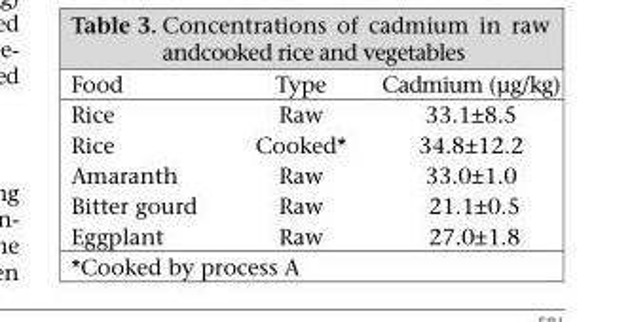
<table><thead><tr><td>Food</td><td>Type</td><td>Cadmium (µg/kg)</td></tr></thead><tbody><tr><td>Rice</td><td>Raw</td><td>33.1±8.5</td></tr><tr><td>Rice</td><td>Cooked*</td><td>34.8±12.2</td></tr><tr><td>Amaranth</td><td>Raw</td><td>33.0±1.0</td></tr><tr><td>Bitter gourd</td><td>Raw</td><td>21.1±0.5</td></tr><tr><td>Eggplant</td><td>Raw</td><td>27.0±1.8</td></tr></tbody></table>